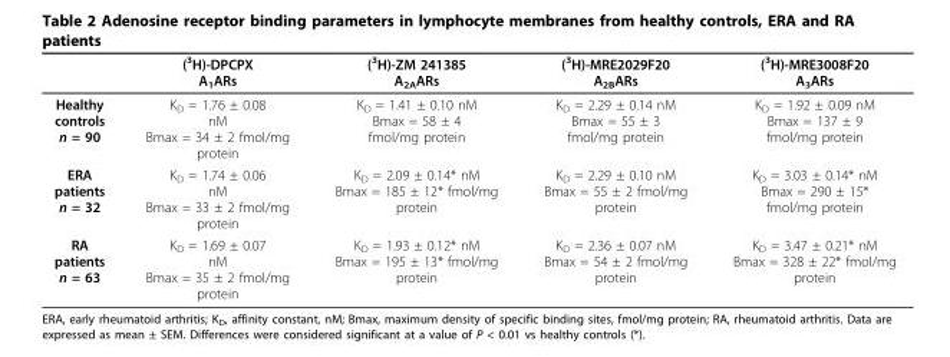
<table><thead><tr><td></td><td>(<sup>3</sup>H)-DPCPX A<sub>1</sub>ARs</td><td>(<sup>3</sup>H)-ZM 241385 A<sub>2A</sub>ARs</td><td>(<sup>3</sup>H)-MRE2029F20 A<sub>2B</sub>ARs</td><td>(<sup>3</sup>H)-MRE3008F20 A<sub>3</sub>ARs</td></tr></thead><tbody><tr><td>Healthy controls n = 90</td><td>K<sub>D</sub> = 1.76 ± 0.08 nM Bmax = 34 ± 2 fmol/mg protein</td><td>K<sub>D</sub> = 1.41 ± 0.10 nM Bmax = 58 ± 4 fmol/mg protein</td><td>K<sub>D</sub> = 2.29 ± 0.14 nM Bmax = 55 ± 3 fmol/mg protein</td><td>K<sub>D</sub> = 1.92 ± 0.09 nM Bmax = 137 ± 9 fmol/mg protein</td></tr><tr><td>ERA patients n = 32</td><td>K<sub>D</sub> = 1.74 ± 0.06 nM Bmax = 33 ± 2 fmol/mg protein</td><td>K<sub>D</sub> = 2.09 ± 0.14* nM Bmax = 185 ± 12* fmol/mg protein</td><td>K<sub>D</sub> = 2.29 ± 0.10 nM Bmax = 55 ± 2 fmol/mg protein</td><td>K<sub>D</sub> = 3.03 ± 0.14* nM Bmax = 290 ± 15* fmol/mg protein</td></tr><tr><td>RA patients n = 63</td><td>K<sub>D</sub> = 1.69 ± 0.07 nM Bmax = 35 ± 2 fmol/mg protein</td><td>K<sub>D</sub> = 1.93 ± 0.12* nM Bmax = 195 ± 13* fmol/mg protein</td><td>K<sub>D</sub> = 2.36 ± 0.07 nM Bmax = 54 ± 2 fmol/mg protein</td><td>K<sub>D</sub> = 3.47 ± 0.21* nM Bmax = 328 ± 22* fmol/mg protein</td></tr></tbody></table>